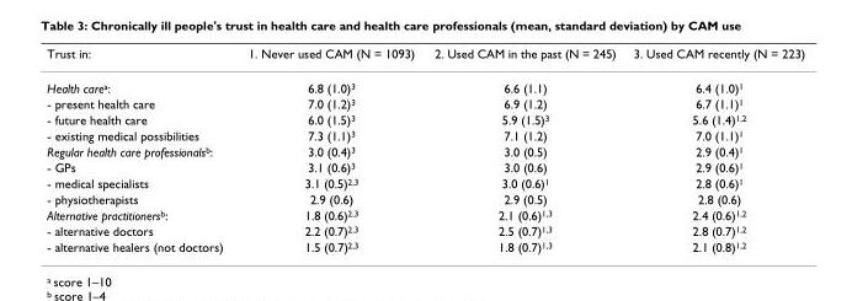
<table><thead><tr><td>Trust in:</td><td>1. Never used CAM (N = 1093)</td><td>2. Used CAM in the past (N = 245)</td><td>3. Used CAM recently (N = 223)</td></tr></thead><tbody><tr><td>Health carea:</td><td>6.8 (1.0)3</td><td>6.6 (1.1)</td><td>6.4 (1.0)1</td></tr><tr><td>- present health care</td><td>7.0 (1.2)3</td><td>6.9 (1.2)</td><td>6.7 (1.1)1</td></tr><tr><td>- future health care</td><td>6.0 (1.5)3</td><td>5.9 (1.5)3</td><td>5.6 (1.4)1,2</td></tr><tr><td>- existing medical possibilities</td><td>7.3 (1.1)3</td><td>7.1 (1.2)</td><td>7.0 (1.1)1</td></tr><tr><td>Regular health care professionalsb:</td><td>3.0 (0.4)3</td><td>3.0 (0.5)</td><td>2.9 (0.4)1</td></tr><tr><td>- GPs</td><td>3.1 (0.6)3</td><td>3.0 (0.6)</td><td>2.9 (0.6)1</td></tr><tr><td>- medical specialists</td><td>3.1 (0.5)2,3</td><td>3.0 (0.6)1</td><td>2.8 (0.6)1</td></tr><tr><td>- physiotherapists</td><td>2.9 (0.6)</td><td>2.9 (0.5)</td><td>2.8 (0.6)</td></tr><tr><td>Alternative practitionersb:</td><td>1.8 (0.6)2,3</td><td>2.1 (0.6)1,3</td><td>2.4 (0.6)1,2</td></tr><tr><td>- alternative doctors</td><td>2.2 (0.7)2,3</td><td>2.5 (0.7)1,3</td><td>2.8 (0.7)1,2</td></tr><tr><td>- alternative healers (not doctors)</td><td>1.5 (0.7)2,3</td><td>1.8 (0.7)1,3</td><td>2.1 (0.8)1,2</td></tr></tbody></table>